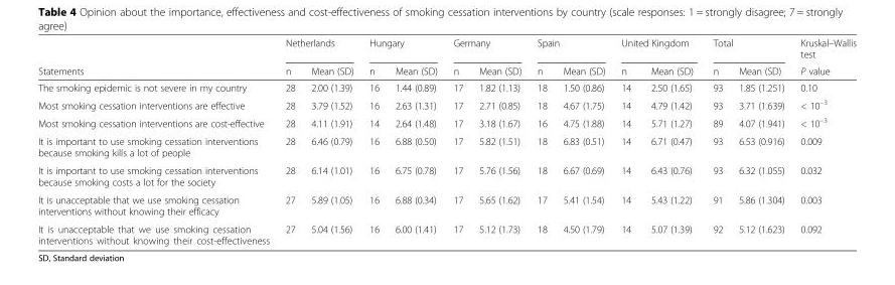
<table><thead><tr><td rowspan="2">Statements</td><td colspan="2">Netherlands</td><td colspan="2">Hungary</td><td colspan="2">Germany</td><td colspan="2">Spain</td><td colspan="2">United Kingdom</td><td colspan="2">Total</td><td rowspan="2">Kruskal–Wallis test P value</td></tr><tr><td>n</td><td>Mean (SD)</td><td>n</td><td>Mean (SD)</td><td>n</td><td>Mean (SD)</td><td>n</td><td>Mean (SD)</td><td>n</td><td>Mean (SD)</td><td>n</td><td>Mean (SD)</td></tr></thead><tbody><tr><td>The smoking epidemic is not severe in my country</td><td>28</td><td>2.00 (1.39)</td><td>16</td><td>1.44 (0.89)</td><td>17</td><td>1.82 (1.13)</td><td>18</td><td>1.50 (0.86)</td><td>14</td><td>2.50 (1.65)</td><td>93</td><td>1.85 (1.251)</td><td>0.10</td></tr><tr><td>Most smoking cessation interventions are effective</td><td>28</td><td>3.79 (1.52)</td><td>16</td><td>2.63 (1.31)</td><td>17</td><td>2.71 (0.85)</td><td>18</td><td>4.67 (1.75)</td><td>14</td><td>4.79 (1.42)</td><td>93</td><td>3.71 (1.639)</td><td>&lt; 10<sup>–3</sup></td></tr><tr><td>Most smoking cessation interventions are cost-effective</td><td>28</td><td>4.11 (1.91)</td><td>14</td><td>2.64 (1.48)</td><td>17</td><td>3.18 (1.67)</td><td>16</td><td>4.75 (1.88)</td><td>14</td><td>5.71 (1.27)</td><td>89</td><td>4.07 (1.941)</td><td>&lt; 10<sup>–3</sup></td></tr><tr><td>It is important to use smoking cessation interventions because smoking kills a lot of people</td><td>28</td><td>6.46 (0.79)</td><td>16</td><td>6.88 (0.50)</td><td>17</td><td>5.82 (1.51)</td><td>18</td><td>6.83 (0.51)</td><td>14</td><td>6.71 (0.47)</td><td>93</td><td>6.53 (0.916)</td><td>0.009</td></tr><tr><td>It is important to use smoking cessation interventions because smoking costs a lot for the society</td><td>28</td><td>6.14 (1.01)</td><td>16</td><td>6.75 (0.78)</td><td>17</td><td>5.76 (1.56)</td><td>18</td><td>6.67 (0.69)</td><td>14</td><td>6.43 (0.76)</td><td>93</td><td>6.32 (1.055)</td><td>0.032</td></tr><tr><td>It is unacceptable that we use smoking cessation interventions without knowing their efficacy</td><td>27</td><td>5.89 (1.05)</td><td>16</td><td>6.88 (0.34)</td><td>17</td><td>5.65 (1.62)</td><td>17</td><td>5.41 (1.54)</td><td>14</td><td>5.43 (1.22)</td><td>91</td><td>5.86 (1.304)</td><td>0.003</td></tr><tr><td>It is unacceptable that we use smoking cessation interventions without knowing their cost-effectiveness</td><td>27</td><td>5.04 (1.56)</td><td>16</td><td>6.00 (1.41)</td><td>17</td><td>5.12 (1.73)</td><td>18</td><td>4.50 (1.79)</td><td>14</td><td>5.07 (1.39)</td><td>92</td><td>5.12 (1.623)</td><td>0.092</td></tr></tbody></table>